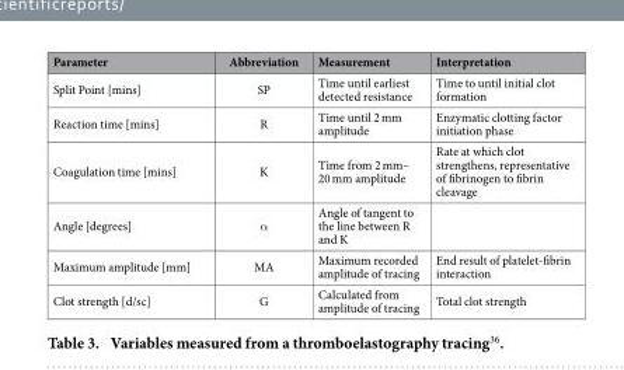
<table><thead><tr><td>Parameter</td><td>Abbreviation</td><td>Measurement</td><td>Interpretation</td></tr></thead><tbody><tr><td>Split Point [mins]</td><td>SP</td><td>Time until earliest detected resistance</td><td>Time to until initial clot formation</td></tr><tr><td>Reaction time [mins]</td><td>R</td><td>Time until 2 mm amplitude</td><td>Enzymatic clotting factor initiation phase</td></tr><tr><td>Coagulation time [mins]</td><td>K</td><td>Time from 2 mm– 20 mm amplitude</td><td>Rate at which clot strengthens, representative of fibrinogen to fibrin cleavage</td></tr><tr><td>Angle [degrees]</td><td>α</td><td>Angle of tangent to the line between R and K</td><td></td></tr><tr><td>Maximum amplitude [mm]</td><td>MA</td><td>Maximum recorded amplitude of tracing</td><td>End result of platelet-fibrin interaction</td></tr><tr><td>Clot strength [d/sc]</td><td>G</td><td>Calculated from amplitude of tracing</td><td>Total clot strength</td></tr></tbody></table>